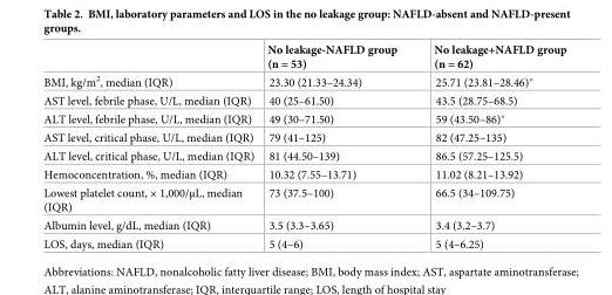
<table><thead><tr><td></td><td>No leakage-NAFLD group (n = 53)</td><td>No leakage+NAFLD group (n = 62)</td></tr></thead><tbody><tr><td>BMI, kg/m<sup>2</sup>, median (IQR)</td><td>23.30 (21.33–24.34)</td><td>25.71 (23.81–28.46)*</td></tr><tr><td>AST level, febrile phase, U/L, median (IQR)</td><td>40 (25–61.50)</td><td>43.5 (28.75–68.5)</td></tr><tr><td>ALT level, febrile phase, U/L, median (IQR)</td><td>49 (30–71.50)</td><td>59 (43.50–86)*</td></tr><tr><td>AST level, critical phase, U/L, median (IQR)</td><td>79 (41–125)</td><td>82 (47.25–135)</td></tr><tr><td>ALT level, critical phase, U/L, median (IQR)</td><td>81 (44.50–139)</td><td>86.5 (57.25–125.5)</td></tr><tr><td>Hemoconcentration, %, median (IQR)</td><td>10.32 (7.55–13.71)</td><td>11.02 (8.21–13.92)</td></tr><tr><td>Lowest platelet count, × 1,000/μL, median (IQR)</td><td>73 (37.5–100)</td><td>66.5 (34–109.75)</td></tr><tr><td>Albumin level, g/dL, median (IQR)</td><td>3.5 (3.3–3.65)</td><td>3.4 (3.2–3.7)</td></tr><tr><td>LOS, days, median (IQR)</td><td>5 (4–6)</td><td>5 (4–6.25)</td></tr></tbody></table>